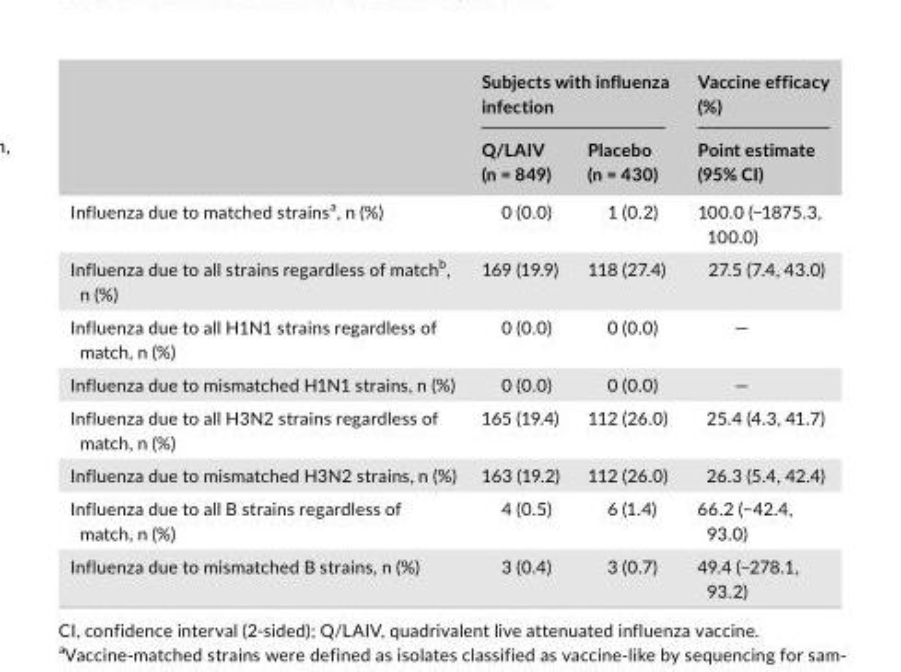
<table><thead><tr><td rowspan="2"></td><td colspan="2">Subjects with influenza infection</td><td rowspan="2">Vaccine efficacy (%) Point estimate (95% CI)</td></tr><tr><td>Q/LAIV (n = 849)</td><td>Placebo (n = 430)</td></tr></thead><tbody><tr><td>Influenza due to matched strains<sup>a</sup>, n (%)</td><td>0 (0.0)</td><td>1 (0.2)</td><td>100.0 (−1875.3, 100.0)</td></tr><tr><td>Influenza due to all strains regardless of match<sup>b</sup>, n (%)</td><td>169 (19.9)</td><td>118 (27.4)</td><td>27.5 (7.4, 43.0)</td></tr><tr><td>Influenza due to all H1N1 strains regardless of match, n (%)</td><td>0 (0.0)</td><td>0 (0.0)</td><td>—</td></tr><tr><td>Influenza due to mismatched H1N1 strains, n (%)</td><td>0 (0.0)</td><td>0 (0.0)</td><td>—</td></tr><tr><td>Influenza due to all H3N2 strains regardless of match, n (%)</td><td>165 (19.4)</td><td>112 (26.0)</td><td>25.4 (4.3, 41.7)</td></tr><tr><td>Influenza due to mismatched H3N2 strains, n (%)</td><td>163 (19.2)</td><td>112 (26.0)</td><td>26.3 (5.4, 42.4)</td></tr><tr><td>Influenza due to all B strains regardless of match, n (%)</td><td>4 (0.5)</td><td>6 (1.4)</td><td>66.2 (−42.4, 93.0)</td></tr><tr><td>Influenza due to mismatched B strains, n (%)</td><td>3 (0.4)</td><td>3 (0.7)</td><td>49.4 (−278.1, 93.2)</td></tr></tbody></table>